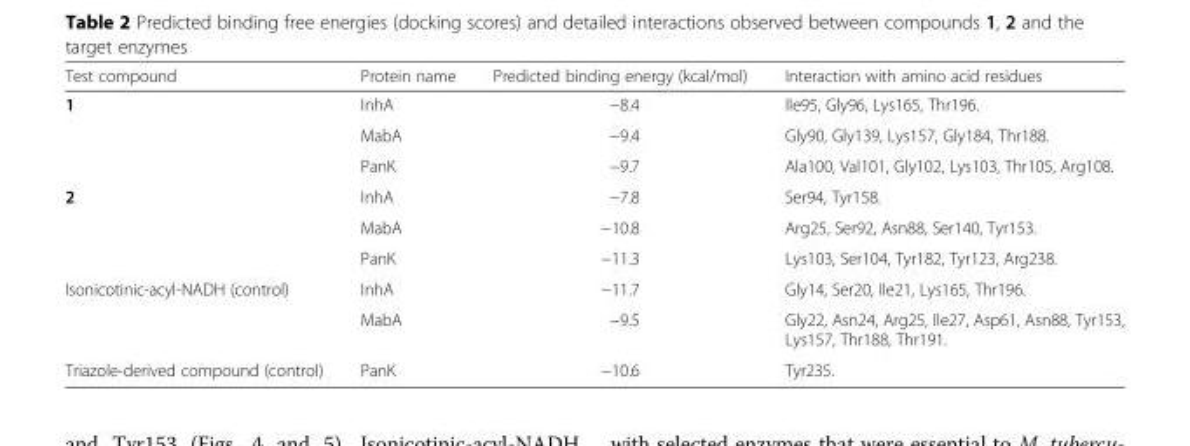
<table><thead><tr><td>Test compound</td><td>Protein name</td><td>Predicted binding energy (kcal/mol)</td><td>Interaction with amino acid residues</td></tr></thead><tbody><tr><td rowspan="3">1</td><td>InhA</td><td>−8.4</td><td>Ile95, Gly96, Lys165, Thr196.</td></tr><tr><td>MabA</td><td>−9.4</td><td>Gly90, Gly139, Lys157, Gly184, Thr188.</td></tr><tr><td>PanK</td><td>−9.7</td><td>Ala100, Val101, Gly102, Lys103, Thr105, Arg108.</td></tr><tr><td rowspan="3">2</td><td>InhA</td><td>−7.8</td><td>Ser94, Tyr158.</td></tr><tr><td>MabA</td><td>−10.8</td><td>Arg25, Ser92, Asn88, Ser140, Tyr153.</td></tr><tr><td>PanK</td><td>−11.3</td><td>Lys103, Ser104, Tyr182, Tyr123, Arg238.</td></tr><tr><td rowspan="2">Isonicotinic-acyl-NADH (control)</td><td>InhA</td><td>−11.7</td><td>Gly14, Ser20, Ile21, Lys165, Thr196.</td></tr><tr><td>MabA</td><td>−9.5</td><td>Gly22, Asn24, Arg25, Ile27, Asp61, Asn88, Tyr153, Lys157, Thr188, Thr191.</td></tr><tr><td>Triazole-derived compound (control)</td><td>PanK</td><td>−10.6</td><td>Tyr235.</td></tr></tbody></table>